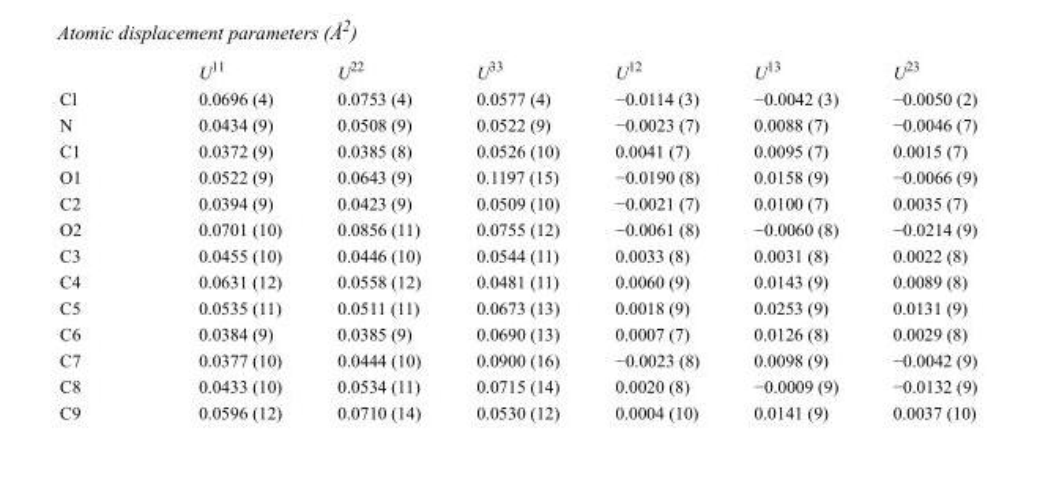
<table><thead><tr><td></td><td>U<sup>11</sup></td><td>U<sup>22</sup></td><td>U<sup>33</sup></td><td>U<sup>12</sup></td><td>U<sup>13</sup></td><td>U<sup>23</sup></td></tr></thead><tbody><tr><td>Cl</td><td>0.0696 (4)</td><td>0.0753 (4)</td><td>0.0577 (4)</td><td>−0.0114 (3)</td><td>−0.0042 (3)</td><td>−0.0050 (2)</td></tr><tr><td>N</td><td>0.0434 (9)</td><td>0.0508 (9)</td><td>0.0522 (9)</td><td>−0.0023 (7)</td><td>0.0088 (7)</td><td>−0.0046 (7)</td></tr><tr><td>C1</td><td>0.0372 (9)</td><td>0.0385 (8)</td><td>0.0526 (10)</td><td>0.0041 (7)</td><td>0.0095 (7)</td><td>0.0015 (7)</td></tr><tr><td>O1</td><td>0.0522 (9)</td><td>0.0643 (9)</td><td>0.1197 (15)</td><td>−0.0190 (8)</td><td>0.0158 (9)</td><td>−0.0066 (9)</td></tr><tr><td>C2</td><td>0.0394 (9)</td><td>0.0423 (9)</td><td>0.0509 (10)</td><td>−0.0021 (7)</td><td>0.0100 (7)</td><td>0.0035 (7)</td></tr><tr><td>O2</td><td>0.0701 (10)</td><td>0.0856 (11)</td><td>0.0755 (12)</td><td>−0.0061 (8)</td><td>−0.0060 (8)</td><td>−0.0214 (9)</td></tr><tr><td>C3</td><td>0.0455 (10)</td><td>0.0446 (10)</td><td>0.0544 (11)</td><td>0.0033 (8)</td><td>0.0031 (8)</td><td>0.0022 (8)</td></tr><tr><td>C4</td><td>0.0631 (12)</td><td>0.0558 (12)</td><td>0.0481 (11)</td><td>0.0060 (9)</td><td>0.0143 (9)</td><td>0.0089 (8)</td></tr><tr><td>C5</td><td>0.0535 (11)</td><td>0.0511 (11)</td><td>0.0673 (13)</td><td>0.0018 (9)</td><td>0.0253 (9)</td><td>0.0131 (9)</td></tr><tr><td>C6</td><td>0.0384 (9)</td><td>0.0385 (9)</td><td>0.0690 (13)</td><td>0.0007 (7)</td><td>0.0126 (8)</td><td>0.0029 (8)</td></tr><tr><td>C7</td><td>0.0377 (10)</td><td>0.0444 (10)</td><td>0.0900 (16)</td><td>−0.0023 (8)</td><td>0.0098 (9)</td><td>−0.0042 (9)</td></tr><tr><td>C8</td><td>0.0433 (10)</td><td>0.0534 (11)</td><td>0.0715 (14)</td><td>0.0020 (8)</td><td>−0.0009 (9)</td><td>−0.0132 (9)</td></tr><tr><td>C9</td><td>0.0596 (12)</td><td>0.0710 (14)</td><td>0.0530 (12)</td><td>0.0004 (10)</td><td>0.0141 (9)</td><td>0.0037 (10)</td></tr></tbody></table>